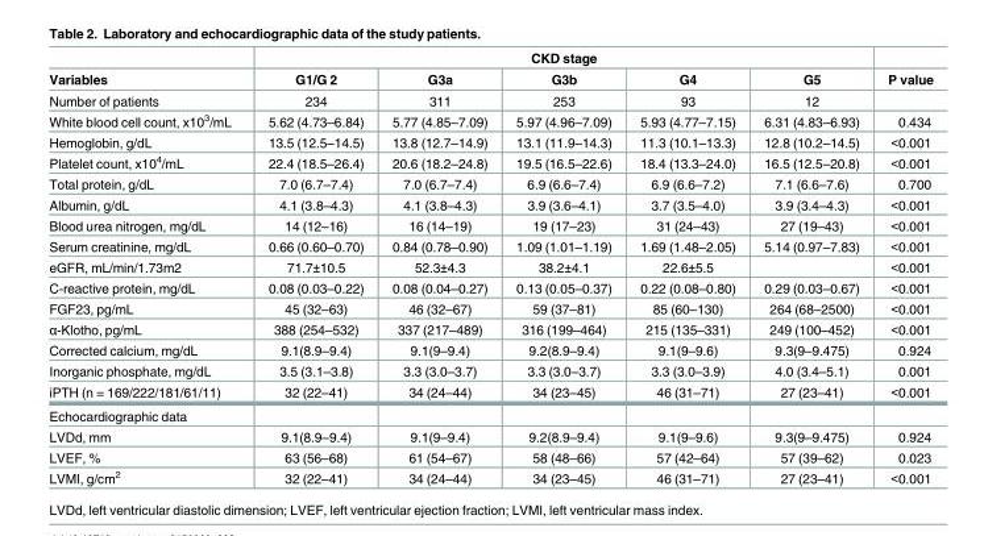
<table><thead><tr><td rowspan="2">Variables</td><td colspan="5">CKD stage</td><td rowspan="2">P value</td></tr><tr><td>G1/G 2</td><td>G3a</td><td>G3b</td><td>G4</td><td>G5</td></tr></thead><tbody><tr><td>Number of patients</td><td>234</td><td>311</td><td>253</td><td>93</td><td>12</td><td></td></tr><tr><td>White blood cell count, x10<sup>3</sup>/mL</td><td>5.62 (4.73–6.84)</td><td>5.77 (4.85–7.09)</td><td>5.97 (4.96–7.09)</td><td>5.93 (4.77–7.15)</td><td>6.31 (4.83–6.93)</td><td>0.434</td></tr><tr><td>Hemoglobin, g/dL</td><td>13.5 (12.5–14.5)</td><td>13.8 (12.7–14.9)</td><td>13.1 (11.9–14.3)</td><td>11.3 (10.1–13.3)</td><td>12.8 (10.2–14.5)</td><td>&lt;0.001</td></tr><tr><td>Platelet count, x10<sup>4</sup>/mL</td><td>22.4 (18.5–26.4)</td><td>20.6 (18.2–24.8)</td><td>19.5 (16.5–22.6)</td><td>18.4 (13.3–24.0)</td><td>16.5 (12.5–20.8)</td><td>&lt;0.001</td></tr><tr><td>Total protein, g/dL</td><td>7.0 (6.7–7.4)</td><td>7.0 (6.7–7.4)</td><td>6.9 (6.6–7.4)</td><td>6.9 (6.6–7.2)</td><td>7.1 (6.6–7.6)</td><td>0.700</td></tr><tr><td>Albumin, g/dL</td><td>4.1 (3.8–4.3)</td><td>4.1 (3.8–4.3)</td><td>3.9 (3.6–4.1)</td><td>3.7 (3.5–4.0)</td><td>3.9 (3.4–4.3)</td><td>&lt;0.001</td></tr><tr><td>Blood urea nitrogen, mg/dL</td><td>14 (12–16)</td><td>16 (14–19)</td><td>19 (17–23)</td><td>31 (24–43)</td><td>27 (19–43)</td><td>&lt;0.001</td></tr><tr><td>Serum creatinine, mg/dL</td><td>0.66 (0.60–0.70)</td><td>0.84 (0.78–0.90)</td><td>1.09 (1.01–1.19)</td><td>1.69 (1.48–2.05)</td><td>5.14 (0.97–7.83)</td><td>&lt;0.001</td></tr><tr><td>eGFR, mL/min/1.73m2</td><td>71.7±10.5</td><td>52.3±4.3</td><td>38.2±4.1</td><td>22.6±5.5</td><td></td><td>&lt;0.001</td></tr><tr><td>C-reactive protein, mg/dL</td><td>0.08 (0.03–0.22)</td><td>0.08 (0.04–0.27)</td><td>0.13 (0.05–0.37)</td><td>0.22 (0.08–0.80)</td><td>0.29 (0.03–0.67)</td><td>&lt;0.001</td></tr><tr><td>FGF23, pg/mL</td><td>45 (32–63)</td><td>46 (32–67)</td><td>59 (37–81)</td><td>85 (60–130)</td><td>264 (68–2500)</td><td>&lt;0.001</td></tr><tr><td>α-Klotho, pg/mL</td><td>388 (254–532)</td><td>337 (217–489)</td><td>316 (199–464)</td><td>215 (135–331)</td><td>249 (100–452)</td><td>&lt;0.001</td></tr><tr><td>Corrected calcium, mg/dL</td><td>9.1(8.9–9.4)</td><td>9.1(9–9.4)</td><td>9.2(8.9–9.4)</td><td>9.1(9–9.6)</td><td>9.3(9–9.475)</td><td>0.924</td></tr><tr><td>Inorganic phosphate, mg/dL</td><td>3.5 (3.1–3.8)</td><td>3.3 (3.0–3.7)</td><td>3.3 (3.0–3.7)</td><td>3.3 (3.0–3.9)</td><td>4.0 (3.4–5.1)</td><td>0.001</td></tr><tr><td>iPTH (n = 169/222/181/61/11)</td><td>32 (22–41)</td><td>34 (24–44)</td><td>34 (23–45)</td><td>46 (31–71)</td><td>27 (23–41)</td><td>&lt;0.001</td></tr><tr><td colspan="7">Echocardiographic data</td></tr><tr><td>LVDd, mm</td><td>9.1(8.9–9.4)</td><td>9.1(9–9.4)</td><td>9.2(8.9–9.4)</td><td>9.1(9–9.6)</td><td>9.3(9–9.475)</td><td>0.924</td></tr><tr><td>LVEF, %</td><td>63 (56–68)</td><td>61 (54–67)</td><td>58 (48–66)</td><td>57 (42–64)</td><td>57 (39–62)</td><td>0.023</td></tr><tr><td>LVMI, g/cm<sup>2</sup></td><td>32 (22–41)</td><td>34 (24–44)</td><td>34 (23–45)</td><td>46 (31–71)</td><td>27 (23–41)</td><td>&lt;0.001</td></tr></tbody></table>